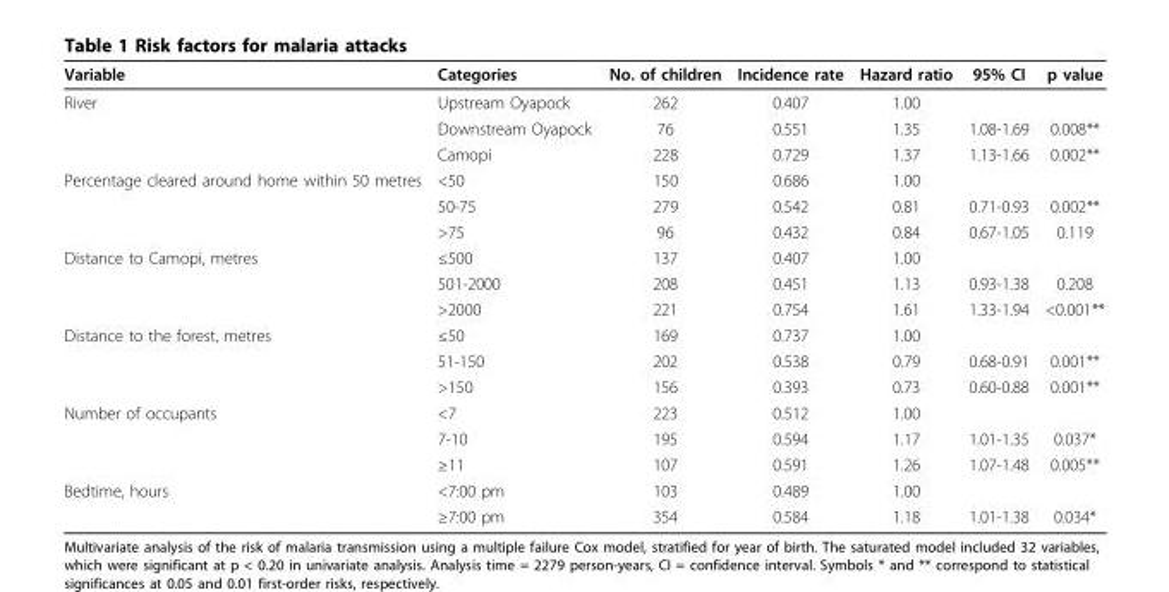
<table><thead><tr><td>Variable</td><td>Categories</td><td>No. of children</td><td>Incidence rate</td><td>Hazard ratio</td><td>95% CI</td><td>p value</td></tr></thead><tbody><tr><td rowspan="3">River</td><td>Upstream Oyapock</td><td>262</td><td>0.407</td><td>1.00</td><td></td><td></td></tr><tr><td>Downstream Oyapock</td><td>76</td><td>0.551</td><td>1.35</td><td>1.08-1.69</td><td>0.008**</td></tr><tr><td>Camopi</td><td>228</td><td>0.729</td><td>1.37</td><td>1.13-1.66</td><td>0.002**</td></tr><tr><td rowspan="3">Percentage cleared around home within 50 metres</td><td>&lt;50</td><td>150</td><td>0.686</td><td>1.00</td><td></td><td></td></tr><tr><td>50-75</td><td>279</td><td>0.542</td><td>0.81</td><td>0.71-0.93</td><td>0.002**</td></tr><tr><td>&gt;75</td><td>96</td><td>0.432</td><td>0.84</td><td>0.67-1.05</td><td>0.119</td></tr><tr><td rowspan="3">Distance to Camopi, metres</td><td>≤500</td><td>137</td><td>0.407</td><td>1.00</td><td></td><td></td></tr><tr><td>501-2000</td><td>208</td><td>0.451</td><td>1.13</td><td>0.93-1.38</td><td>0.208</td></tr><tr><td>&gt;2000</td><td>221</td><td>0.754</td><td>1.61</td><td>1.33-1.94</td><td>&lt;0.001**</td></tr><tr><td rowspan="3">Distance to the forest, metres</td><td>≤50</td><td>169</td><td>0.737</td><td>1.00</td><td></td><td></td></tr><tr><td>51-150</td><td>202</td><td>0.538</td><td>0.79</td><td>0.68-0.91</td><td>0.001**</td></tr><tr><td>&gt;150</td><td>156</td><td>0.393</td><td>0.73</td><td>0.60-0.88</td><td>0.001**</td></tr><tr><td rowspan="3">Number of occupants</td><td>&lt;7</td><td>223</td><td>0.512</td><td>1.00</td><td></td><td></td></tr><tr><td>7-10</td><td>195</td><td>0.594</td><td>1.17</td><td>1.01-1.35</td><td>0.037*</td></tr><tr><td>≥11</td><td>107</td><td>0.591</td><td>1.26</td><td>1.07-1.48</td><td>0.005**</td></tr><tr><td rowspan="2">Bedtime, hours</td><td>&lt;7:00 pm</td><td>103</td><td>0.489</td><td>1.00</td><td></td><td></td></tr><tr><td>≥7:00 pm</td><td>354</td><td>0.584</td><td>1.18</td><td>1.01-1.38</td><td>0.034*</td></tr></tbody></table>